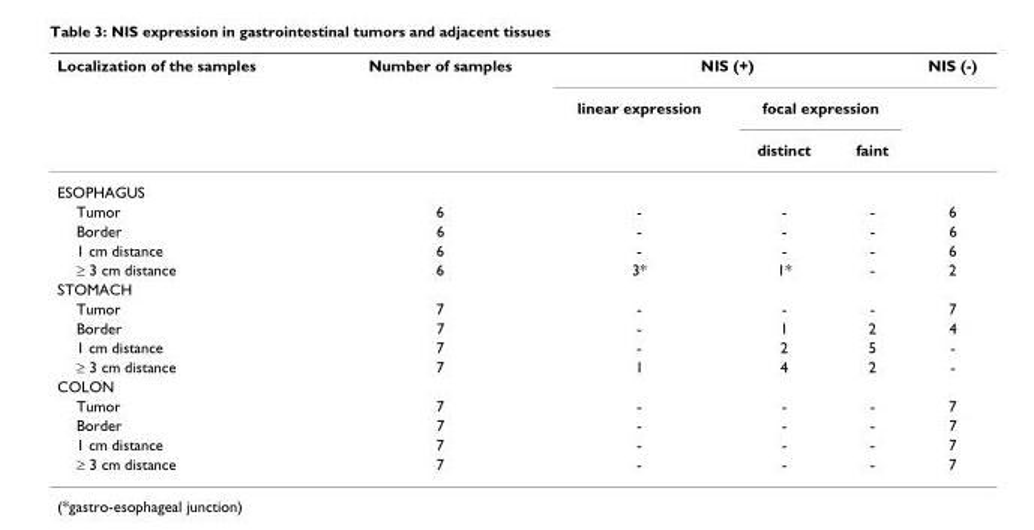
<table><thead><tr><td rowspan="3">Localization of the samples</td><td rowspan="3">Number of samples</td><td colspan="3">NIS (+)</td><td rowspan="3">NIS (-)</td></tr><tr><td rowspan="2">linear expression</td><td colspan="2">focal expression</td></tr><tr><td>distinct</td><td>faint</td></tr></thead><tbody><tr><td colspan="6">ESOPHAGUS</td></tr><tr><td>Tumor</td><td>6</td><td>-</td><td>-</td><td>-</td><td>6</td></tr><tr><td>Border</td><td>6</td><td>-</td><td>-</td><td>-</td><td>6</td></tr><tr><td>1 cm distance</td><td>6</td><td>-</td><td>-</td><td>-</td><td>6</td></tr><tr><td>≥ 3 cm distance</td><td>6</td><td>3*</td><td>1*</td><td>-</td><td>2</td></tr><tr><td colspan="6">STOMACH</td></tr><tr><td>Tumor</td><td>7</td><td>-</td><td>-</td><td>-</td><td>7</td></tr><tr><td>Border</td><td>7</td><td>-</td><td>1</td><td>2</td><td>4</td></tr><tr><td>1 cm distance</td><td>7</td><td>-</td><td>2</td><td>5</td><td>-</td></tr><tr><td>≥ 3 cm distance</td><td>7</td><td>1</td><td>4</td><td>2</td><td>-</td></tr><tr><td colspan="6">COLON</td></tr><tr><td>Tumor</td><td>7</td><td>-</td><td>-</td><td>-</td><td>7</td></tr><tr><td>Border</td><td>7</td><td>-</td><td>-</td><td>-</td><td>7</td></tr><tr><td>1 cm distance</td><td>7</td><td>-</td><td>-</td><td>-</td><td>7</td></tr><tr><td>≥ 3 cm distance</td><td>7</td><td>-</td><td>-</td><td>-</td><td>7</td></tr></tbody></table>